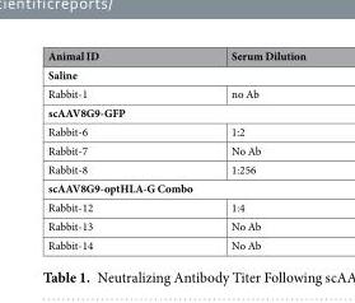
<table><thead><tr><td>Animal ID</td><td>Serum Dilution</td></tr></thead><tbody><tr><td colspan="2">Saline</td></tr><tr><td>Rabbit-1</td><td>no Ab</td></tr><tr><td colspan="2">scAAV8G9-GFP</td></tr><tr><td>Rabbit-6</td><td>1:2</td></tr><tr><td>Rabbit-7</td><td>No Ab</td></tr><tr><td>Rabbit-8</td><td>1:256</td></tr><tr><td colspan="2">scAAV8G9-optHLA-G Combo</td></tr><tr><td>Rabbit-12</td><td>1:4</td></tr><tr><td>Rabbit-13</td><td>No Ab</td></tr><tr><td>Rabbit-14</td><td>No Ab</td></tr></tbody></table>